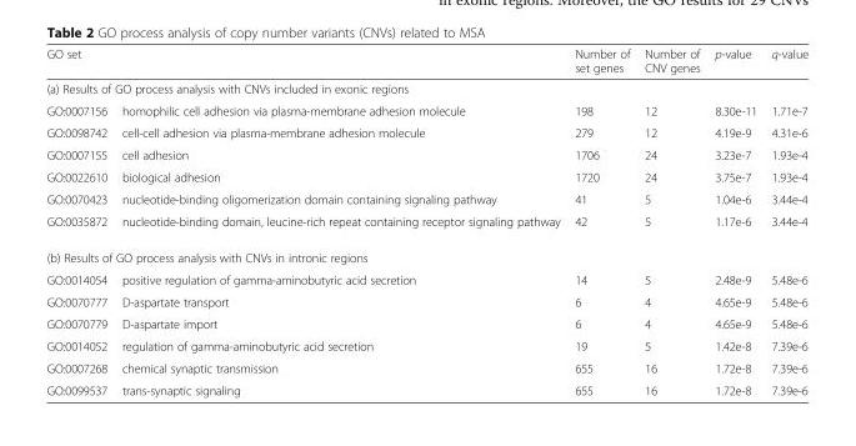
<table><thead><tr><td colspan="2">GO set</td><td>Number of set genes</td><td>Number of CNV genes</td><td>p-value</td><td>q-value</td></tr><tr><td colspan="6">(a) Results of GO process analysis with CNVs included in exonic regions</td></tr><tr><td>GO:0007156</td><td>homophilic cell adhesion via plasma-membrane adhesion molecule</td><td>198</td><td>12</td><td>8.30e-11</td><td>1.71e-7</td></tr></thead><tbody><tr><td>GO:0098742</td><td>cell-cell adhesion via plasma-membrane adhesion molecule</td><td>279</td><td>12</td><td>4.19e-9</td><td>4.31e-6</td></tr><tr><td>GO:0007155</td><td>cell adhesion</td><td>1706</td><td>24</td><td>3.23e-7</td><td>1.93e-4</td></tr><tr><td>GO:0022610</td><td>biological adhesion</td><td>1720</td><td>24</td><td>3.75e-7</td><td>1.93e-4</td></tr><tr><td>GO:0070423</td><td>nucleotide-binding oligomerization domain containing signaling pathway</td><td>41</td><td>5</td><td>1.04e-6</td><td>3.44e-4</td></tr><tr><td>GO:0035872</td><td>nucleotide-binding domain, leucine-rich repeat containing receptor signaling pathway</td><td>42</td><td>5</td><td>1.17e-6</td><td>3.44e-4</td></tr><tr><td colspan="6">(b) Results of GO process analysis with CNVs in intronic regions</td></tr><tr><td>GO:0014054</td><td>positive regulation of gamma-aminobutyric acid secretion</td><td>14</td><td>5</td><td>2.48e-9</td><td>5.48e-6</td></tr><tr><td>GO:0070777</td><td>D-aspartate transport</td><td>6</td><td>4</td><td>4.65e-9</td><td>5.48e-6</td></tr><tr><td>GO:0070779</td><td>D-aspartate import</td><td>6</td><td>4</td><td>4.65e-9</td><td>5.48e-6</td></tr><tr><td>GO:0014052</td><td>regulation of gamma-aminobutyric acid secretion</td><td>19</td><td>5</td><td>1.42e-8</td><td>7.39e-6</td></tr><tr><td>GO:0007268</td><td>chemical synaptic transmission</td><td>655</td><td>16</td><td>1.72e-8</td><td>7.39e-6</td></tr><tr><td>GO:0099537</td><td>trans-synaptic signaling</td><td>655</td><td>16</td><td>1.72e-8</td><td>7.39e-6</td></tr></tbody></table>